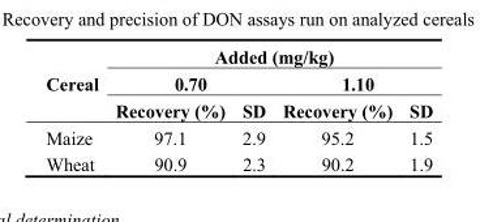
<table><thead><tr><td rowspan="3">Cereal</td><td colspan="4">Added (mg/kg)</td></tr><tr><td colspan="2">0.70</td><td colspan="2">1.10</td></tr><tr><td>Recovery (%)</td><td>SD</td><td>Recovery (%)</td><td>SD</td></tr></thead><tbody><tr><td>Maize</td><td>97.1</td><td>2.9</td><td>95.2</td><td>1.5</td></tr><tr><td>Wheat</td><td>90.9</td><td>2.3</td><td>90.2</td><td>1.9</td></tr></tbody></table>